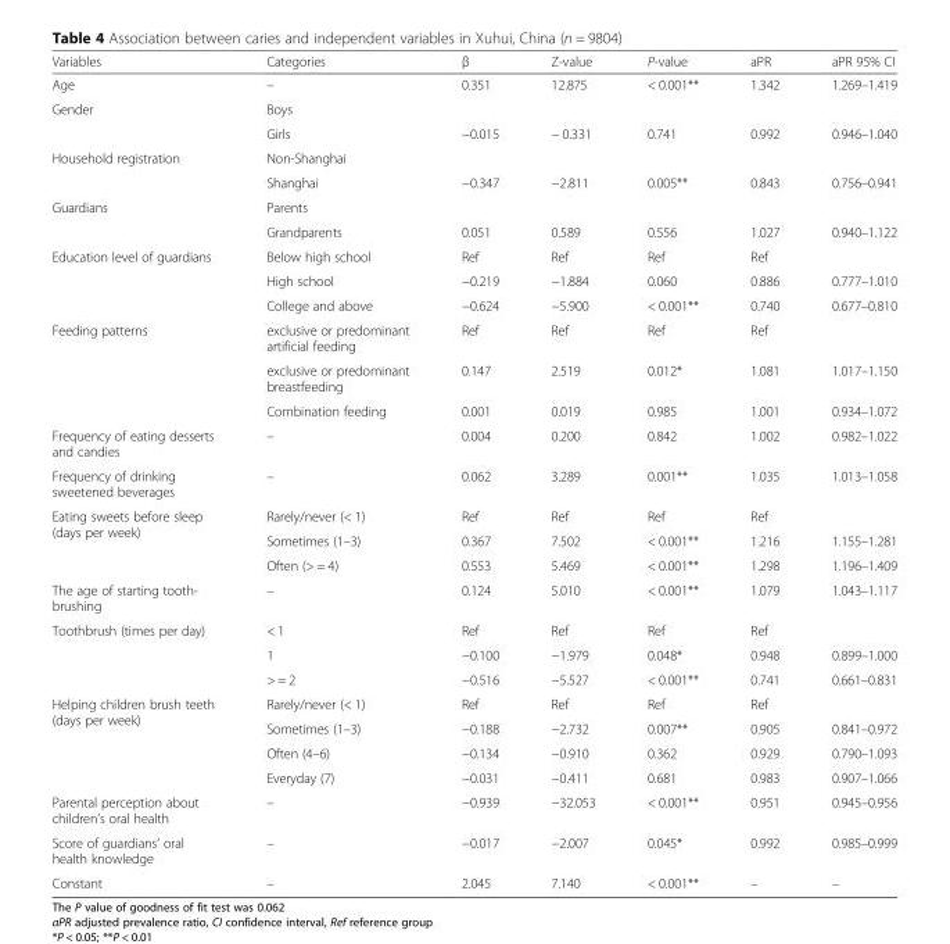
<table><thead><tr><td>Variables</td><td>Categories</td><td>β</td><td>Z-value</td><td>P-value</td><td>aPR</td><td>aPR 95% CI</td></tr></thead><tbody><tr><td>Age</td><td>–</td><td>0.351</td><td>12.875</td><td>&lt; 0.001**</td><td>1.342</td><td>1.269–1.419</td></tr><tr><td rowspan="2">Gender</td><td>Boys</td><td></td><td></td><td></td><td></td><td></td></tr><tr><td>Girls</td><td>−0.015</td><td>− 0.331</td><td>0.741</td><td>0.992</td><td>0.946–1.040</td></tr><tr><td rowspan="2">Household registration</td><td>Non-Shanghai</td><td></td><td></td><td></td><td></td><td></td></tr><tr><td>Shanghai</td><td>−0.347</td><td>−2.811</td><td>0.005**</td><td>0.843</td><td>0.756–0.941</td></tr><tr><td rowspan="2">Guardians</td><td>Parents</td><td></td><td></td><td></td><td></td><td></td></tr><tr><td>Grandparents</td><td>0.051</td><td>0.589</td><td>0.556</td><td>1.027</td><td>0.940–1.122</td></tr><tr><td rowspan="3">Education level of guardians</td><td>Below high school</td><td>Ref</td><td>Ref</td><td>Ref</td><td>Ref</td><td></td></tr><tr><td>High school</td><td>−0.219</td><td>−1.884</td><td>0.060</td><td>0.886</td><td>0.777–1.010</td></tr><tr><td>College and above</td><td>−0.624</td><td>−5.900</td><td>&lt; 0.001**</td><td>0.740</td><td>0.677–0.810</td></tr><tr><td rowspan="3">Feeding patterns</td><td>exclusive or predominant artificial feeding</td><td>Ref</td><td>Ref</td><td>Ref</td><td>Ref</td><td></td></tr><tr><td>exclusive or predominant breastfeeding</td><td>0.147</td><td>2.519</td><td>0.012*</td><td>1.081</td><td>1.017–1.150</td></tr><tr><td>Combination feeding</td><td>0.001</td><td>0.019</td><td>0.985</td><td>1.001</td><td>0.934–1.072</td></tr><tr><td>Frequency of eating desserts and candies</td><td>–</td><td>0.004</td><td>0.200</td><td>0.842</td><td>1.002</td><td>0.982–1.022</td></tr><tr><td>Frequency of drinking sweetened beverages</td><td>–</td><td>0.062</td><td>3.289</td><td>0.001**</td><td>1.035</td><td>1.013–1.058</td></tr><tr><td rowspan="3">Eating sweets before sleep (days per week)</td><td>Rarely/never (&lt; 1)</td><td>Ref</td><td>Ref</td><td>Ref</td><td>Ref</td><td></td></tr><tr><td>Sometimes (1–3)</td><td>0.367</td><td>7.502</td><td>&lt; 0.001**</td><td>1.216</td><td>1.155–1.281</td></tr><tr><td>Often (&gt; = 4)</td><td>0.553</td><td>5.469</td><td>&lt; 0.001**</td><td>1.298</td><td>1.196–1.409</td></tr><tr><td>The age of starting tooth- brushing</td><td>–</td><td>0.124</td><td>5.010</td><td>&lt; 0.001**</td><td>1.079</td><td>1.043–1.117</td></tr><tr><td rowspan="3">Toothbrush (times per day)</td><td>&lt; 1</td><td>Ref</td><td>Ref</td><td>Ref</td><td>Ref</td><td></td></tr><tr><td>1</td><td>−0.100</td><td>−1.979</td><td>0.048*</td><td>0.948</td><td>0.899–1.000</td></tr><tr><td>&gt; = 2</td><td>−0.516</td><td>−5.527</td><td>&lt; 0.001**</td><td>0.741</td><td>0.661–0.831</td></tr><tr><td rowspan="4">Helping children brush teeth (days per week)</td><td>Rarely/never (&lt; 1)</td><td>Ref</td><td>Ref</td><td>Ref</td><td>Ref</td><td></td></tr><tr><td>Sometimes (1–3)</td><td>−0.188</td><td>−2.732</td><td>0.007**</td><td>0.905</td><td>0.841–0.972</td></tr><tr><td>Often (4–6)</td><td>−0.134</td><td>−0.910</td><td>0.362</td><td>0.929</td><td>0.790–1.093</td></tr><tr><td>Everyday (7)</td><td>−0.031</td><td>−0.411</td><td>0.681</td><td>0.983</td><td>0.907–1.066</td></tr><tr><td>Parental perception about children’s oral health</td><td>–</td><td>−0.939</td><td>−32.053</td><td>&lt; 0.001**</td><td>0.951</td><td>0.945–0.956</td></tr><tr><td>Score of guardians’ oral health knowledge</td><td>–</td><td>−0.017</td><td>−2.007</td><td>0.045*</td><td>0.992</td><td>0.985–0.999</td></tr><tr><td>Constant</td><td>–</td><td>2.045</td><td>7.140</td><td>&lt; 0.001**</td><td>–</td><td>–</td></tr></tbody></table>